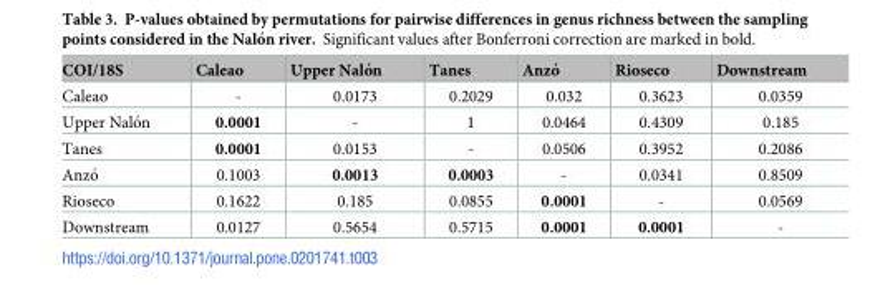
<table><thead><tr><td>COI/18S</td><td>Caleao</td><td>Upper Nalo´n</td><td>Tanes</td><td>Anzo´</td><td>Rioseco</td><td>Downstream</td></tr></thead><tbody><tr><td>Caleao</td><td>-</td><td>0.0173</td><td>0.2029</td><td>0.032</td><td>0.3623</td><td>0.0359</td></tr><tr><td>Upper Nalo´n</td><td>0.0001</td><td>-</td><td>1</td><td>0.0464</td><td>0.4309</td><td>0.185</td></tr><tr><td>Tanes</td><td>0.0001</td><td>0.0153</td><td>-</td><td>0.0506</td><td>0.3952</td><td>0.2086</td></tr><tr><td>Anzo´</td><td>0.1003</td><td>0.0013</td><td>0.0003</td><td>-</td><td>0.0341</td><td>0.8509</td></tr><tr><td>Rioseco</td><td>0.1622</td><td>0.185</td><td>0.0855</td><td>0.0001</td><td>-</td><td>0.0569</td></tr><tr><td>Downstream</td><td>0.0127</td><td>0.5654</td><td>0.5715</td><td>0.0001</td><td>0.0001</td><td>-</td></tr></tbody></table>